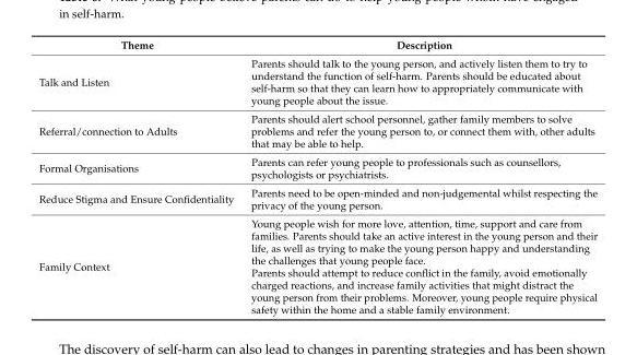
<table><thead><tr><td>Theme</td><td>Description</td></tr></thead><tbody><tr><td>Talk and Listen</td><td>Parents should talk to the young person, and actively listen them to try to understand the function of self-harm. Parents should be educated about self-harm so that they can learn how to appropriately communicate with young people about the issue.</td></tr><tr><td>Referral/connection to Adults</td><td>Parents should alert school personnel, gather family members to solve problems and refer the young person to, or connect them with, other adults that may be able to help.</td></tr><tr><td>Formal Organisations</td><td>Parents can refer young people to professionals such as counsellors, psychologists or psychiatrists.</td></tr><tr><td>Reduce Stigma and Ensure Confidentiality</td><td>Parents need to be open-minded and non-judgemental whilst respecting the privacy of the young person.</td></tr><tr><td>Family Context</td><td>Young people wish for more love, attention, time, support and care from families. Parents should take an active interest in the young person and their life, as well as trying to make the young person happy and understanding the challenges that young people face. Parents should attempt to reduce conflict in the family, avoid emotionally charged reactions, and increase family activities that might distract the young person from their problems. Moreover, young people require physical safety within the home and a stable family environment.</td></tr></tbody></table>